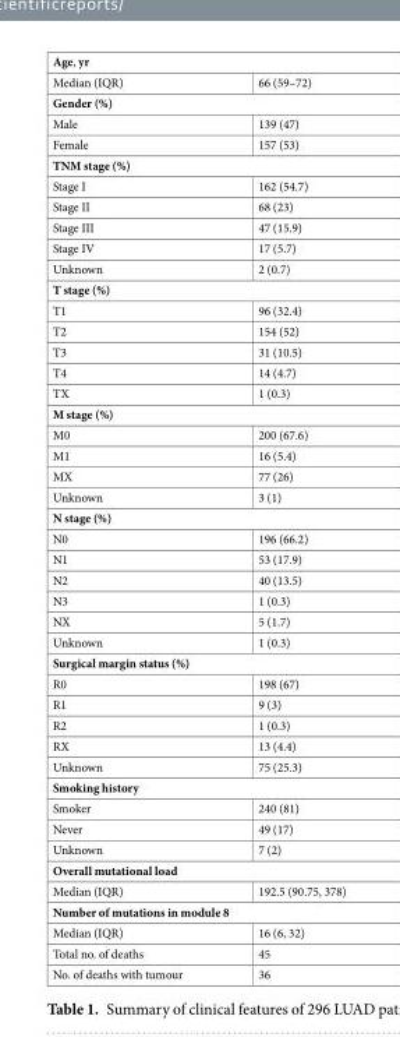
<table><tbody><tr><td colspan="2">Age, yr</td></tr><tr><td>Median (IQR)</td><td>66 (59–72)</td></tr><tr><td colspan="2">Gender (%)</td></tr><tr><td>Male</td><td>139 (47)</td></tr><tr><td>Female</td><td>157 (53)</td></tr><tr><td colspan="2">TNM stage (%)</td></tr><tr><td>Stage I</td><td>162 (54.7)</td></tr><tr><td>Stage II</td><td>68 (23)</td></tr><tr><td>Stage III</td><td>47 (15.9)</td></tr><tr><td>Stage IV</td><td>17 (5.7)</td></tr><tr><td>Unknown</td><td>2 (0.7)</td></tr><tr><td colspan="2">T stage (%)</td></tr><tr><td>T1</td><td>96 (32.4)</td></tr><tr><td>T2</td><td>154 (52)</td></tr><tr><td>T3</td><td>31 (10.5)</td></tr><tr><td>T4</td><td>14 (4.7)</td></tr><tr><td>TX</td><td>1 (0.3)</td></tr><tr><td colspan="2">M stage (%)</td></tr><tr><td>M0</td><td>200 (67.6)</td></tr><tr><td>M1</td><td>16 (5.4)</td></tr><tr><td>MX</td><td>77 (26)</td></tr><tr><td>Unknown</td><td>3 (1)</td></tr><tr><td colspan="2">N stage (%)</td></tr><tr><td>N0</td><td>196 (66.2)</td></tr><tr><td>N1</td><td>53 (17.9)</td></tr><tr><td>N2</td><td>40 (13.5)</td></tr><tr><td>N3</td><td>1 (0.3)</td></tr><tr><td>NX</td><td>5 (1.7)</td></tr><tr><td>Unknown</td><td>1 (0.3)</td></tr><tr><td colspan="2">Surgical margin status (%)</td></tr><tr><td>R0</td><td>198 (67)</td></tr><tr><td>R1</td><td>9 (3)</td></tr><tr><td>R2</td><td>1 (0.3)</td></tr><tr><td>RX</td><td>13 (4.4)</td></tr><tr><td>Unknown</td><td>75 (25.3)</td></tr><tr><td colspan="2">Smoking history</td></tr><tr><td>Smoker</td><td>240 (81)</td></tr><tr><td>Never</td><td>49 (17)</td></tr><tr><td>Unknown</td><td>7 (2)</td></tr><tr><td colspan="2">Overall mutational load</td></tr><tr><td>Median (IQR)</td><td>192.5 (90.75, 378)</td></tr><tr><td colspan="2">Number of mutations in module 8</td></tr><tr><td>Median (IQR)</td><td>16 (6, 32)</td></tr><tr><td>Total no. of deaths</td><td>45</td></tr><tr><td>No. of deaths with tumour</td><td>36</td></tr></tbody></table>